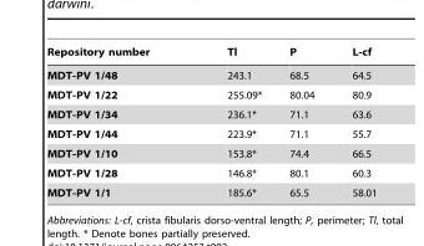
<table><thead><tr><td>Repository number</td><td>Tl</td><td>P</td><td>L-cf</td></tr></thead><tbody><tr><td>MDT-PV 1/48</td><td>243.1</td><td>68.5</td><td>64.5</td></tr><tr><td>MDT-PV 1/22</td><td>255.09*</td><td>80.04</td><td>80.9</td></tr><tr><td>MDT-PV 1/34</td><td>236.1*</td><td>71.1</td><td>63.6</td></tr><tr><td>MDT-PV 1/44</td><td>223.9*</td><td>71.1</td><td>55.7</td></tr><tr><td>MDT-PV 1/10</td><td>153.8*</td><td>74.4</td><td>66.5</td></tr><tr><td>MDT-PV 1/28</td><td>146.8*</td><td>80.1</td><td>60.3</td></tr><tr><td>MDT-PV 1/1</td><td>185.6*</td><td>65.5</td><td>58.01</td></tr></tbody></table>